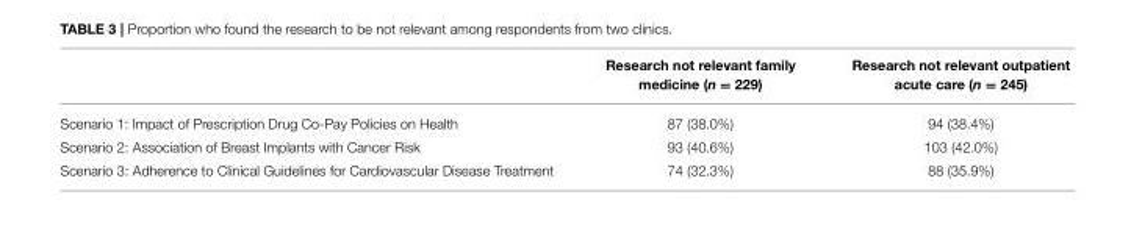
<table><thead><tr><td></td><td>Research not relevant family medicine (n = 229)</td><td>Research not relevant outpatient acute care (n = 245)</td></tr></thead><tbody><tr><td>Scenario 1: Impact of Prescription Drug Co-Pay Policies on Health</td><td>87 (38.0%)</td><td>94 (38.4%)</td></tr><tr><td>Scenario 2: Association of Breast Implants with Cancer Risk</td><td>93 (40.6%)</td><td>103 (42.0%)</td></tr><tr><td>Scenario 3: Adherence to Clinical Guidelines for Cardiovascular Disease Treatment</td><td>74 (32.3%)</td><td>88 (35.9%)</td></tr></tbody></table>